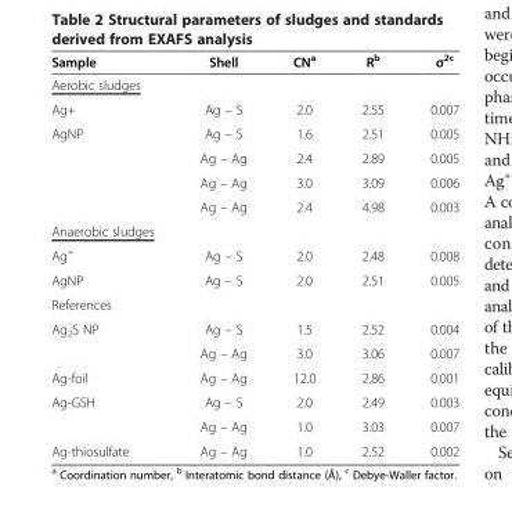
<table><thead><tr><td>Sample</td><td>Shell</td><td>CN<sup>a</sup></td><td>R<sup>b</sup></td><td>σ<sup>2c</sup></td></tr></thead><tbody><tr><td colspan="5">Aerobic sludges</td></tr><tr><td>Ag+</td><td>Ag – S</td><td>2.0</td><td>2.55</td><td>0.007</td></tr><tr><td rowspan="4">AgNP</td><td>Ag – S</td><td>1.6</td><td>2.51</td><td>0.005</td></tr><tr><td>Ag – Ag</td><td>2.4</td><td>2.89</td><td>0.005</td></tr><tr><td>Ag – Ag</td><td>3.0</td><td>3.09</td><td>0.006</td></tr><tr><td>Ag – Ag</td><td>2.4</td><td>4.98</td><td>0.003</td></tr><tr><td colspan="5">Anaerobic sludges</td></tr><tr><td>Ag<sup>+</sup></td><td>Ag – S</td><td>2.0</td><td>2.48</td><td>0.008</td></tr><tr><td>AgNP</td><td>Ag – S</td><td>2.0</td><td>2.51</td><td>0.005</td></tr><tr><td colspan="5">References</td></tr><tr><td rowspan="2">Ag<sub>2</sub>S NP</td><td>Ag – S</td><td>1.5</td><td>2.52</td><td>0.004</td></tr><tr><td>Ag – Ag</td><td>3.0</td><td>3.06</td><td>0.007</td></tr><tr><td>Ag-foil</td><td>Ag – Ag</td><td>12.0</td><td>2.86</td><td>0.001</td></tr><tr><td rowspan="2">Ag-GSH</td><td>Ag – S</td><td>2.0</td><td>2.49</td><td>0.003</td></tr><tr><td>Ag – Ag</td><td>1.0</td><td>3.03</td><td>0.007</td></tr><tr><td>Ag-thiosulfate</td><td>Ag – Ag</td><td>1.0</td><td>2.52</td><td>0.002</td></tr></tbody></table>